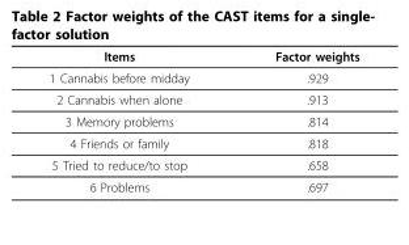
<table><thead><tr><td>Items</td><td>Factor weights</td></tr></thead><tbody><tr><td>1 Cannabis before midday</td><td>.929</td></tr><tr><td>2 Cannabis when alone</td><td>.913</td></tr><tr><td>3 Memory problems</td><td>.814</td></tr><tr><td>4 Friends or family</td><td>.818</td></tr><tr><td>5 Tried to reduce/to stop</td><td>.658</td></tr><tr><td>6 Problems</td><td>.697</td></tr></tbody></table>